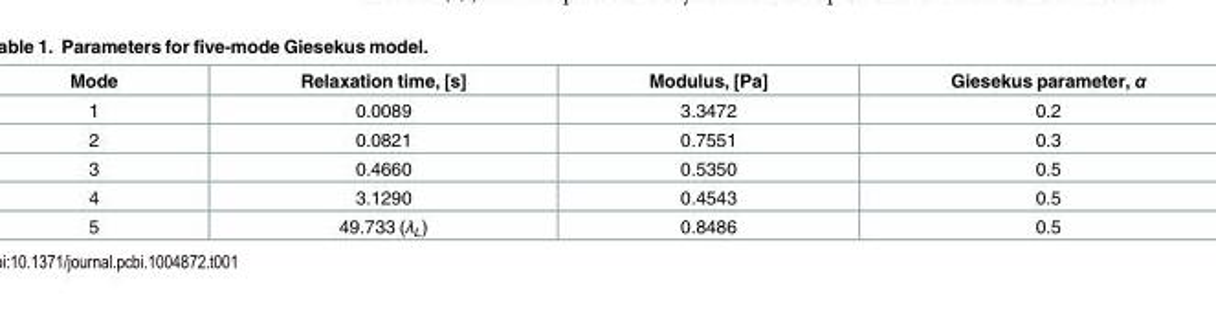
<table><thead><tr><td>Mode</td><td>Relaxation time, [s]</td><td>Modulus, [Pa]</td><td>Giesekus parameter, α</td></tr></thead><tbody><tr><td>1</td><td>0.0089</td><td>3.3472</td><td>0.2</td></tr><tr><td>2</td><td>0.0821</td><td>0.7551</td><td>0.3</td></tr><tr><td>3</td><td>0.4660</td><td>0.5350</td><td>0.5</td></tr><tr><td>4</td><td>3.1290</td><td>0.4543</td><td>0.5</td></tr><tr><td>5</td><td>49.733 (λ<sub>L</sub>)</td><td>0.8486</td><td>0.5</td></tr></tbody></table>